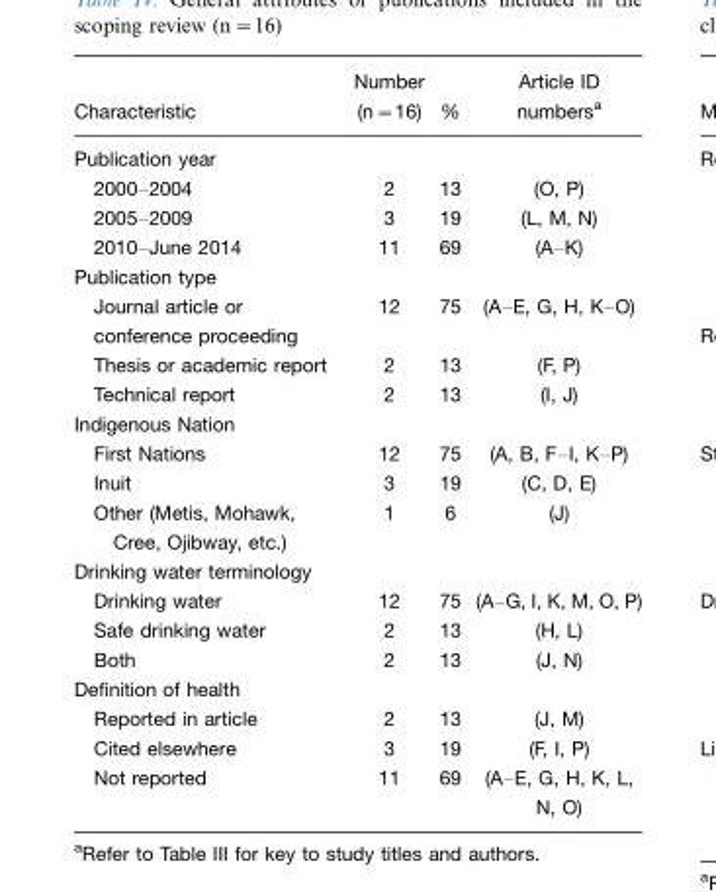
<table><thead><tr><td>Characteristic</td><td>Number (n=16)</td><td>%</td><td>Article ID numbers<sup>a</sup></td></tr></thead><tbody><tr><td colspan="4">Publication year</td></tr><tr><td>2000–2004</td><td>2</td><td>13</td><td>(O, P)</td></tr><tr><td>2005–2009</td><td>3</td><td>19</td><td>(L, M, N)</td></tr><tr><td>2010–June 2014</td><td>11</td><td>69</td><td>(A–K)</td></tr><tr><td colspan="4">Publication type</td></tr><tr><td>Journal article or conference proceeding</td><td>12</td><td>75</td><td>(A–E, G, H, K–O)</td></tr><tr><td>Thesis or academic report</td><td>2</td><td>13</td><td>(F, P)</td></tr><tr><td>Technical report</td><td>2</td><td>13</td><td>(I, J)</td></tr><tr><td colspan="4">Indigenous Nation</td></tr><tr><td>First Nations</td><td>12</td><td>75</td><td>(A, B, F–I, K–P)</td></tr><tr><td>Inuit</td><td>3</td><td>19</td><td>(C, D, E)</td></tr><tr><td>Other (Metis, Mohawk, Cree, Ojibway, etc.)</td><td>1</td><td>6</td><td>(J)</td></tr><tr><td colspan="4">Drinking water terminology</td></tr><tr><td>Drinking water</td><td>12</td><td>75</td><td>(A–G, I, K, M, O, P)</td></tr><tr><td>Safe drinking water</td><td>2</td><td>13</td><td>(H, L)</td></tr><tr><td>Both</td><td>2</td><td>13</td><td>(J, N)</td></tr><tr><td colspan="4">Definition of health</td></tr><tr><td>Reported in article</td><td>2</td><td>13</td><td>(J, M)</td></tr><tr><td>Cited elsewhere</td><td>3</td><td>19</td><td>(F, I, P)</td></tr><tr><td>Not reported</td><td>11</td><td>69</td><td>(A–E, G, H, K, L, N, O)</td></tr></tbody></table>